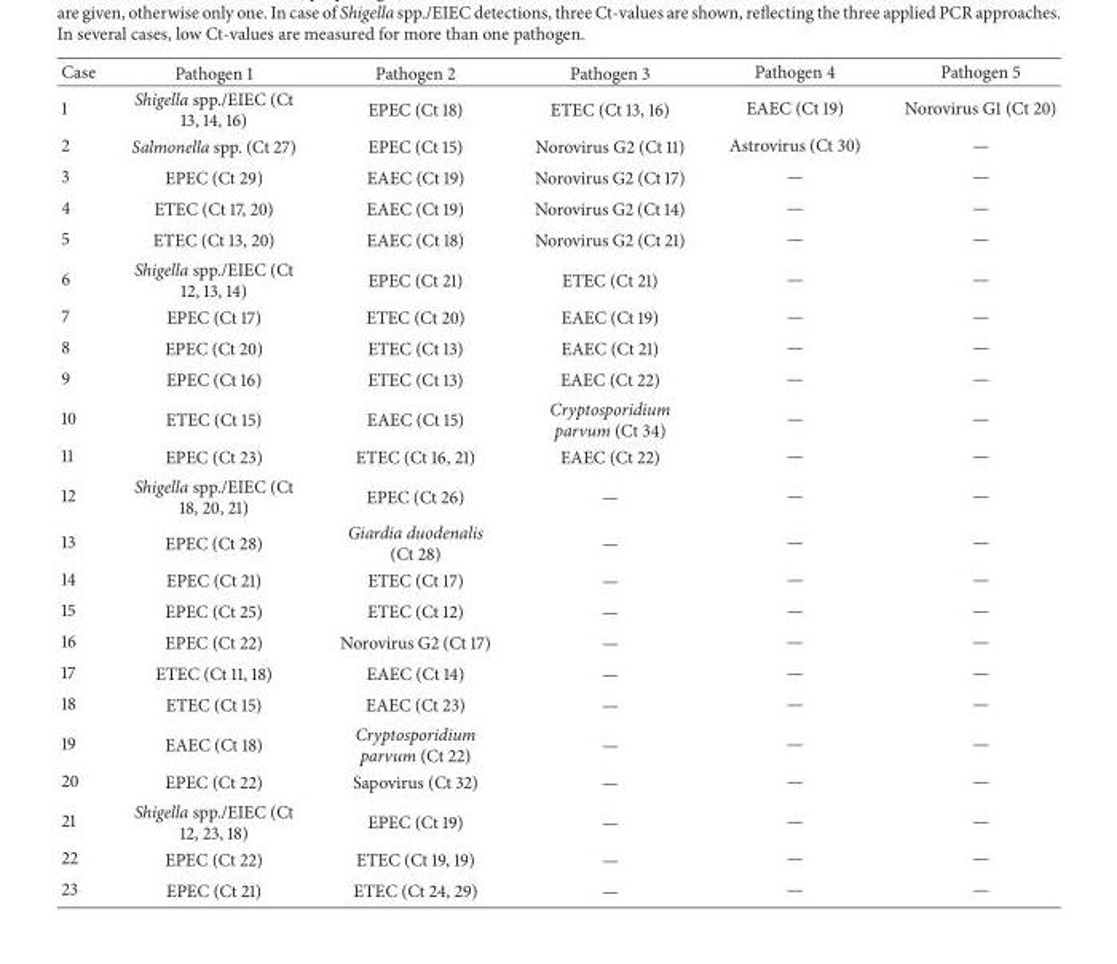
<table><thead><tr><td>Case</td><td>Pathogen 1</td><td>Pathogen 2</td><td>Pathogen 3</td><td>Pathogen 4</td><td>Pathogen 5</td></tr></thead><tbody><tr><td>1</td><td>Shigella spp./EIEC (Ct 13, 14, 16)</td><td>EPEC (Ct 18)</td><td>ETEC (Ct 13, 16)</td><td>EAEC (Ct 19)</td><td>Norovirus G1 (Ct 20)</td></tr><tr><td>2</td><td>Salmonella spp. (Ct 27)</td><td>EPEC (Ct 15)</td><td>Norovirus G2 (Ct 11)</td><td>Astrovirus (Ct 30)</td><td>—</td></tr><tr><td>3</td><td>EPEC (Ct 29)</td><td>EAEC (Ct 19)</td><td>Norovirus G2 (Ct 17)</td><td>—</td><td>—</td></tr><tr><td>4</td><td>ETEC (Ct 17, 20)</td><td>EAEC (Ct 19)</td><td>Norovirus G2 (Ct 14)</td><td>—</td><td>—</td></tr><tr><td>5</td><td>ETEC (Ct 13, 20)</td><td>EAEC (Ct 18)</td><td>Norovirus G2 (Ct 21)</td><td>—</td><td>—</td></tr><tr><td>6</td><td>Shigella spp./EIEC (Ct 12, 13, 14)</td><td>EPEC (Ct 21)</td><td>ETEC (Ct 21)</td><td>—</td><td>—</td></tr><tr><td>7</td><td>EPEC (Ct 17)</td><td>ETEC (Ct 20)</td><td>EAEC (Ct 19)</td><td>—</td><td>—</td></tr><tr><td>8</td><td>EPEC (Ct 20)</td><td>ETEC (Ct 13)</td><td>EAEC (Ct 21)</td><td>—</td><td>—</td></tr><tr><td>9</td><td>EPEC (Ct 16)</td><td>ETEC (Ct 13)</td><td>EAEC (Ct 22)</td><td>—</td><td>—</td></tr><tr><td>10</td><td>ETEC (Ct 15)</td><td>EAEC (Ct 15)</td><td>Cryptosporidium parvum (Ct 34)</td><td>—</td><td>—</td></tr><tr><td>11</td><td>EPEC (Ct 23)</td><td>ETEC (Ct 16, 21)</td><td>EAEC (Ct 22)</td><td>—</td><td>—</td></tr><tr><td>12</td><td>Shigella spp./EIEC (Ct 18, 20, 21)</td><td>EPEC (Ct 26)</td><td>—</td><td>—</td><td>—</td></tr><tr><td>13</td><td>EPEC (Ct 28)</td><td>Giardia duodenalis (Ct 28)</td><td>—</td><td>—</td><td>—</td></tr><tr><td>14</td><td>EPEC (Ct 21)</td><td>ETEC (Ct 17)</td><td>—</td><td>—</td><td>—</td></tr><tr><td>15</td><td>EPEC (Ct 25)</td><td>ETEC (Ct 12)</td><td>—</td><td>—</td><td>—</td></tr><tr><td>16</td><td>EPEC (Ct 22)</td><td>Norovirus G2 (Ct 17)</td><td>—</td><td>—</td><td>—</td></tr><tr><td>17</td><td>ETEC (Ct 11, 18)</td><td>EAEC (Ct 14)</td><td>—</td><td>—</td><td>—</td></tr><tr><td>18</td><td>ETEC (Ct 15)</td><td>EAEC (Ct 23)</td><td>—</td><td>—</td><td>—</td></tr><tr><td>19</td><td>EAEC (Ct 18)</td><td>Cryptosporidium parvum (Ct 22)</td><td>—</td><td>—</td><td>—</td></tr><tr><td>20</td><td>EPEC (Ct 22)</td><td>Sapovirus (Ct 32)</td><td>—</td><td>—</td><td>—</td></tr><tr><td>21</td><td>Shigella spp./EIEC (Ct 12, 23, 18)</td><td>EPEC (Ct 19)</td><td>—</td><td>—</td><td>—</td></tr><tr><td>22</td><td>EPEC (Ct 22)</td><td>ETEC (Ct 19, 19)</td><td>—</td><td>—</td><td>—</td></tr><tr><td>23</td><td>EPEC (Ct 21)</td><td>ETEC (Ct 24, 29)</td><td>—</td><td>—</td><td>—</td></tr></tbody></table>